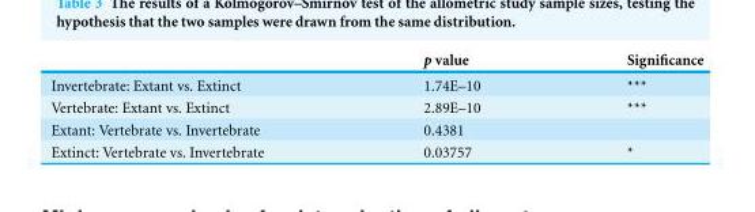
<table><thead><tr><td></td><td>p value</td><td>Significance</td></tr></thead><tbody><tr><td>Invertebrate: Extant vs. Extinct</td><td>1.74E–10</td><td>***</td></tr><tr><td>Vertebrate: Extant vs. Extinct</td><td>2.89E–10</td><td>***</td></tr><tr><td>Extant: Vertebrate vs. Invertebrate</td><td>0.4381</td><td></td></tr><tr><td>Extinct: Vertebrate vs. Invertebrate</td><td>0.03757</td><td>*</td></tr></tbody></table>